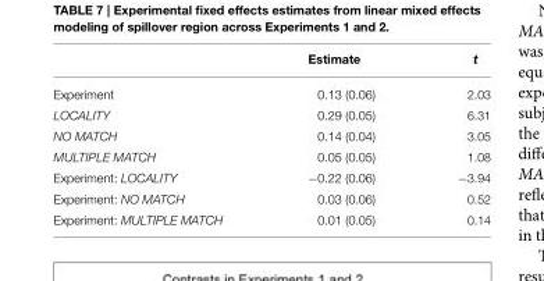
<table><thead><tr><td></td><td>Estimate</td><td>t</td></tr></thead><tbody><tr><td>Experiment</td><td>0.13 (0.06)</td><td>2.03</td></tr><tr><td>LOCALITY</td><td>0.29 (0.05)</td><td>6.31</td></tr><tr><td>NO MATCH</td><td>0.14 (0.04)</td><td>3.05</td></tr><tr><td>MULTIPLE MATCH</td><td>0.05 (0.05)</td><td>1.08</td></tr><tr><td>Experiment: LOCALITY</td><td>−0.22 (0.06)</td><td>−3.94</td></tr><tr><td>Experiment: NO MATCH</td><td>0.03 (0.06)</td><td>0.52</td></tr><tr><td>Experiment: MULTIPLE MATCH</td><td>0.01 (0.05)</td><td>0.14</td></tr></tbody></table>